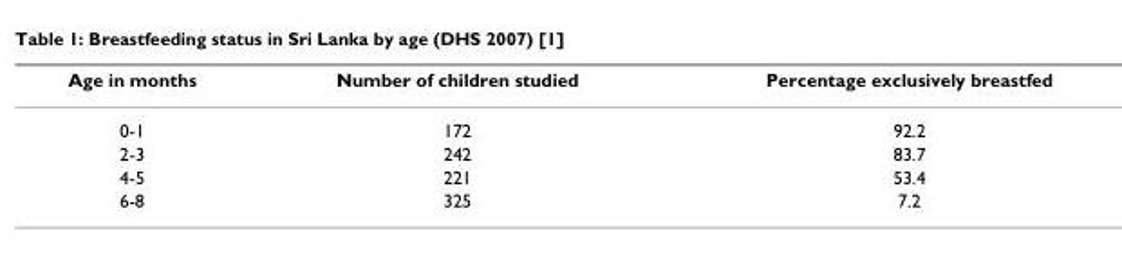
<table><thead><tr><td>Age in months</td><td>Number of children studied</td><td>Percentage exclusively breastfed</td></tr></thead><tbody><tr><td>0-1</td><td>172</td><td>92.2</td></tr><tr><td>2-3</td><td>242</td><td>83.7</td></tr><tr><td>4-5</td><td>221</td><td>53.4</td></tr><tr><td>6-8</td><td>325</td><td>7.2</td></tr></tbody></table>